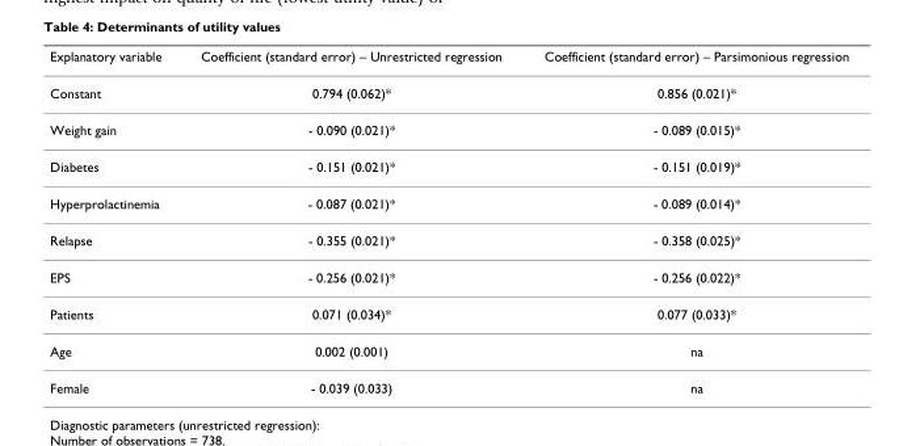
<table><thead><tr><td>Explanatory variable</td><td>Coefficient (standard error) – Unrestricted regression</td><td>Coefficient (standard error) – Parsimonious regression</td></tr></thead><tbody><tr><td>Constant</td><td>0.794 (0.062)*</td><td>0.856 (0.021)*</td></tr><tr><td>Weight gain</td><td>- 0.090 (0.021)*</td><td>- 0.089 (0.015)*</td></tr><tr><td>Diabetes</td><td>- 0.151 (0.021)*</td><td>- 0.151 (0.019)*</td></tr><tr><td>Hyperprolactinemia</td><td>- 0.087 (0.021)*</td><td>- 0.089 (0.014)*</td></tr><tr><td>Relapse</td><td>- 0.355 (0.021)*</td><td>- 0.358 (0.025)*</td></tr><tr><td>EPS</td><td>- 0.256 (0.021)*</td><td>- 0.256 (0.022)*</td></tr><tr><td>Patients</td><td>0.071 (0.034)*</td><td>0.077 (0.033)*</td></tr><tr><td>Age</td><td>0.002 (0.001)</td><td>na</td></tr><tr><td>Female</td><td>- 0.039 (0.033)</td><td>na</td></tr></tbody></table>